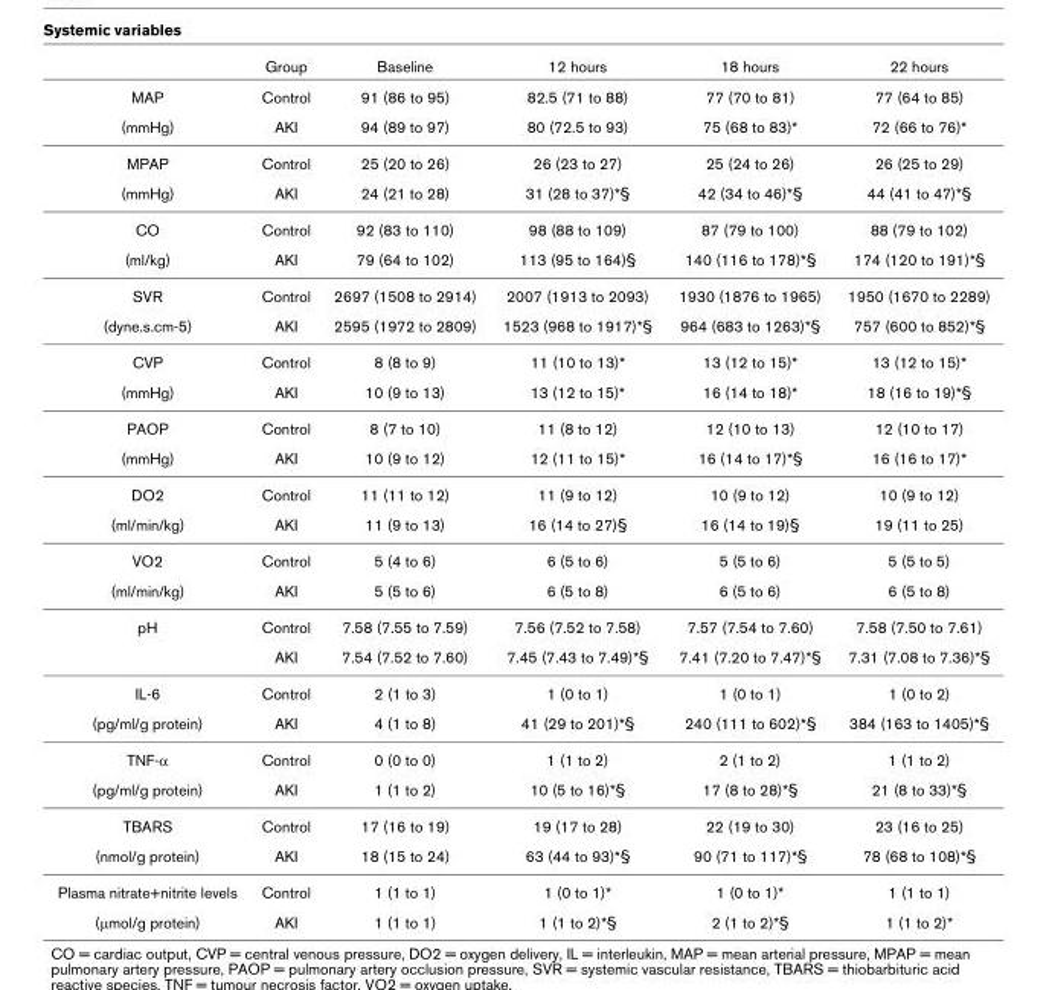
<table><thead><tr><td></td><td>Group</td><td>Baseline</td><td>12 hours</td><td>18 hours</td><td>22 hours</td></tr></thead><tbody><tr><td>MAP</td><td>Control</td><td>91 (86 to 95)</td><td>82.5 (71 to 88)</td><td>77 (70 to 81)</td><td>77 (64 to 85)</td></tr><tr><td>(mmHg)</td><td>AKI</td><td>94 (89 to 97)</td><td>80 (72.5 to 93)</td><td>75 (68 to 83)*</td><td>72 (66 to 76)*</td></tr><tr><td>MPAP</td><td>Control</td><td>25 (20 to 26)</td><td>26 (23 to 27)</td><td>25 (24 to 26)</td><td>26 (25 to 29)</td></tr><tr><td>(mmHg)</td><td>AKI</td><td>24 (21 to 28)</td><td>31 (28 to 37)*§</td><td>42 (34 to 46)*§</td><td>44 (41 to 47)*§</td></tr><tr><td>CO</td><td>Control</td><td>92 (83 to 110)</td><td>98 (88 to 109)</td><td>87 (79 to 100)</td><td>88 (79 to 102)</td></tr><tr><td>(ml/kg)</td><td>AKI</td><td>79 (64 to 102)</td><td>113 (95 to 164)§</td><td>140 (116 to 178)*§</td><td>174 (120 to 191)*§</td></tr><tr><td>SVR</td><td>Control</td><td>2697 (1508 to 2914)</td><td>2007 (1913 to 2093)</td><td>1930 (1876 to 1965)</td><td>1950 (1670 to 2289)</td></tr><tr><td>(dyne.s.cm-5)</td><td>AKI</td><td>2595 (1972 to 2809)</td><td>1523 (968 to 1917)*§</td><td>964 (683 to 1263)*§</td><td>757 (600 to 852)*§</td></tr><tr><td>CVP</td><td>Control</td><td>8 (8 to 9)</td><td>11 (10 to 13)*</td><td>13 (12 to 15)*</td><td>13 (12 to 15)*</td></tr><tr><td>(mmHg)</td><td>AKI</td><td>10 (9 to 13)</td><td>13 (12 to 15)*</td><td>16 (14 to 18)*</td><td>18 (16 to 19)*§</td></tr><tr><td>PAOP</td><td>Control</td><td>8 (7 to 10)</td><td>11 (8 to 12)</td><td>12 (10 to 13)</td><td>12 (10 to 17)</td></tr><tr><td>(mmHg)</td><td>AKI</td><td>10 (9 to 12)</td><td>12 (11 to 15)*</td><td>16 (14 to 17)*§</td><td>16 (16 to 17)*</td></tr><tr><td>DO2</td><td>Control</td><td>11 (11 to 12)</td><td>11 (9 to 12)</td><td>10 (9 to 12)</td><td>10 (9 to 12)</td></tr><tr><td>(ml/min/kg)</td><td>AKI</td><td>11 (9 to 13)</td><td>16 (14 to 27)§</td><td>16 (14 to 19)§</td><td>19 (11 to 25)</td></tr><tr><td>VO2</td><td>Control</td><td>5 (4 to 6)</td><td>6 (5 to 6)</td><td>5 (5 to 6)</td><td>5 (5 to 5)</td></tr><tr><td>(ml/min/kg)</td><td>AKI</td><td>5 (5 to 6)</td><td>6 (5 to 8)</td><td>6 (5 to 6)</td><td>6 (5 to 8)</td></tr><tr><td rowspan="2">pH</td><td>Control</td><td>7.58 (7.55 to 7.59)</td><td>7.56 (7.52 to 7.58)</td><td>7.57 (7.54 to 7.60)</td><td>7.58 (7.50 to 7.61)</td></tr><tr><td>AKI</td><td>7.54 (7.52 to 7.60)</td><td>7.45 (7.43 to 7.49)*§</td><td>7.41 (7.20 to 7.47)*§</td><td>7.31 (7.08 to 7.36)*§</td></tr><tr><td>IL-6</td><td>Control</td><td>2 (1 to 3)</td><td>1 (0 to 1)</td><td>1 (0 to 1)</td><td>1 (0 to 2)</td></tr><tr><td>(pg/ml/g protein)</td><td>AKI</td><td>4 (1 to 8)</td><td>41 (29 to 201)*§</td><td>240 (111 to 602)*§</td><td>384 (163 to 1405)*§</td></tr><tr><td>TNF-α</td><td>Control</td><td>0 (0 to 0)</td><td>1 (1 to 2)</td><td>2 (1 to 2)</td><td>1 (1 to 2)</td></tr><tr><td>(pg/ml/g protein)</td><td>AKI</td><td>1 (1 to 2)</td><td>10 (5 to 16)*§</td><td>17 (8 to 28)*§</td><td>21 (8 to 33)*§</td></tr><tr><td>TBARS</td><td>Control</td><td>17 (16 to 19)</td><td>19 (17 to 28)</td><td>22 (19 to 30)</td><td>23 (16 to 25)</td></tr><tr><td>(nmol/g protein)</td><td>AKI</td><td>18 (15 to 24)</td><td>63 (44 to 93)*§</td><td>90 (71 to 117)*§</td><td>78 (68 to 108)*§</td></tr><tr><td>Plasma nitrate+nitrite levels</td><td>Control</td><td>1 (1 to 1)</td><td>1 (0 to 1)*</td><td>1 (0 to 1)*</td><td>1 (1 to 1)</td></tr><tr><td>(μmol/g protein)</td><td>AKI</td><td>1 (1 to 1)</td><td>1 (1 to 2)*§</td><td>2 (1 to 2)*§</td><td>1 (1 to 2)*</td></tr></tbody></table>